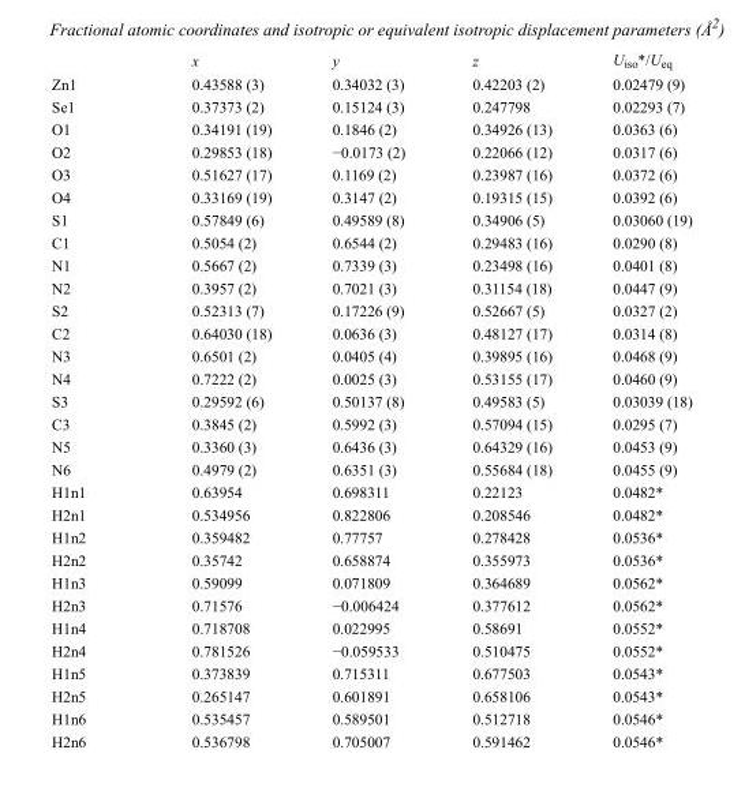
<table><thead><tr><td></td><td>x</td><td>y</td><td>z</td><td>U<sub>iso</sub>*/U<sub>eq</sub></td></tr></thead><tbody><tr><td>Zn1</td><td>0.43588 (3)</td><td>0.34032 (3)</td><td>0.42203 (2)</td><td>0.02479 (9)</td></tr><tr><td>Se1</td><td>0.37373 (2)</td><td>0.15124 (3)</td><td>0.247798</td><td>0.02293 (7)</td></tr><tr><td>O1</td><td>0.34191 (19)</td><td>0.1846 (2)</td><td>0.34926 (13)</td><td>0.0363 (6)</td></tr><tr><td>O2</td><td>0.29853 (18)</td><td>−0.0173 (2)</td><td>0.22066 (12)</td><td>0.0317 (6)</td></tr><tr><td>O3</td><td>0.51627 (17)</td><td>0.1169 (2)</td><td>0.23987 (16)</td><td>0.0372 (6)</td></tr><tr><td>O4</td><td>0.33169 (19)</td><td>0.3147 (2)</td><td>0.19315 (15)</td><td>0.0392 (6)</td></tr><tr><td>S1</td><td>0.57849 (6)</td><td>0.49589 (8)</td><td>0.34906 (5)</td><td>0.03060 (19)</td></tr><tr><td>C1</td><td>0.5054 (2)</td><td>0.6544 (2)</td><td>0.29483 (16)</td><td>0.0290 (8)</td></tr><tr><td>N1</td><td>0.5667 (2)</td><td>0.7339 (3)</td><td>0.23498 (16)</td><td>0.0401 (8)</td></tr><tr><td>N2</td><td>0.3957 (2)</td><td>0.7021 (3)</td><td>0.31154 (18)</td><td>0.0447 (9)</td></tr><tr><td>S2</td><td>0.52313 (7)</td><td>0.17226 (9)</td><td>0.52667 (5)</td><td>0.0327 (2)</td></tr><tr><td>C2</td><td>0.64030 (18)</td><td>0.0636 (3)</td><td>0.48127 (17)</td><td>0.0314 (8)</td></tr><tr><td>N3</td><td>0.6501 (2)</td><td>0.0405 (4)</td><td>0.39895 (16)</td><td>0.0468 (9)</td></tr><tr><td>N4</td><td>0.7222 (2)</td><td>0.0025 (3)</td><td>0.53155 (17)</td><td>0.0460 (9)</td></tr><tr><td>S3</td><td>0.29592 (6)</td><td>0.50137 (8)</td><td>0.49583 (5)</td><td>0.03039 (18)</td></tr><tr><td>C3</td><td>0.3845 (2)</td><td>0.5992 (3)</td><td>0.57094 (15)</td><td>0.0295 (7)</td></tr><tr><td>N5</td><td>0.3360 (3)</td><td>0.6436 (3)</td><td>0.64329 (16)</td><td>0.0453 (9)</td></tr><tr><td>N6</td><td>0.4979 (2)</td><td>0.6351 (3)</td><td>0.55684 (18)</td><td>0.0455 (9)</td></tr><tr><td>H1n1</td><td>0.63954</td><td>0.698311</td><td>0.22123</td><td>0.0482*</td></tr><tr><td>H2n1</td><td>0.534956</td><td>0.822806</td><td>0.208546</td><td>0.0482*</td></tr><tr><td>H1n2</td><td>0.359482</td><td>0.77757</td><td>0.278428</td><td>0.0536*</td></tr><tr><td>H2n2</td><td>0.35742</td><td>0.658874</td><td>0.355973</td><td>0.0536*</td></tr><tr><td>H1n3</td><td>0.59099</td><td>0.071809</td><td>0.364689</td><td>0.0562*</td></tr><tr><td>H2n3</td><td>0.71576</td><td>−0.006424</td><td>0.377612</td><td>0.0562*</td></tr><tr><td>H1n4</td><td>0.718708</td><td>0.022995</td><td>0.58691</td><td>0.0552*</td></tr><tr><td>H2n4</td><td>0.781526</td><td>−0.059533</td><td>0.510475</td><td>0.0552*</td></tr><tr><td>H1n5</td><td>0.373839</td><td>0.715311</td><td>0.677503</td><td>0.0543*</td></tr><tr><td>H2n5</td><td>0.265147</td><td>0.601891</td><td>0.658106</td><td>0.0543*</td></tr><tr><td>H1n6</td><td>0.535457</td><td>0.589501</td><td>0.512718</td><td>0.0546*</td></tr><tr><td>H2n6</td><td>0.536798</td><td>0.705007</td><td>0.591462</td><td>0.0546*</td></tr></tbody></table>